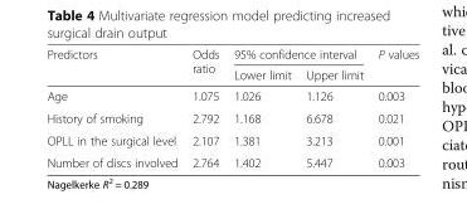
<table><thead><tr><td rowspan="2">Predictors</td><td rowspan="2">Odds ratio</td><td colspan="2">95% confidence interval</td><td rowspan="2">P values</td></tr><tr><td>Lower limit</td><td>Upper limit</td></tr></thead><tbody><tr><td>Age</td><td>1.075</td><td>1.026</td><td>1.126</td><td>0.003</td></tr><tr><td>History of smoking</td><td>2.792</td><td>1.168</td><td>6.678</td><td>0.021</td></tr><tr><td>OPLL in the surgical level</td><td>2.107</td><td>1.381</td><td>3.213</td><td>0.001</td></tr><tr><td>Number of discs involved</td><td>2.764</td><td>1.402</td><td>5.447</td><td>0.003</td></tr></tbody></table>